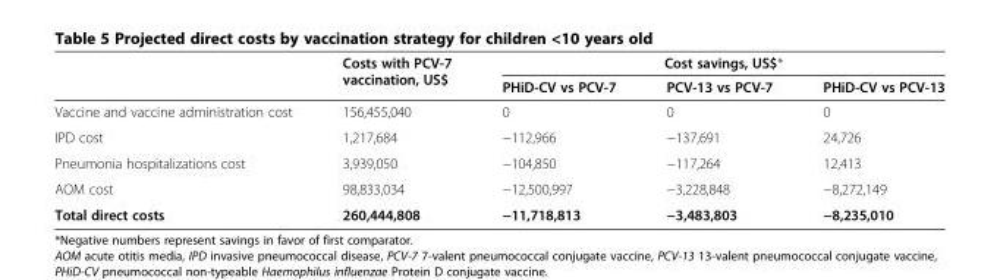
<table><thead><tr><td rowspan="2"></td><td rowspan="2">Costs with PCV-7 vaccination, US$</td><td colspan="3">Cost savings, US$*</td></tr><tr><td>PHiD-CV vs PCV-7</td><td>PCV-13 vs PCV-7</td><td>PHiD-CV vs PCV-13</td></tr></thead><tbody><tr><td>Vaccine and vaccine administration cost</td><td>156,455,040</td><td>0</td><td>0</td><td>0</td></tr><tr><td>IPD cost</td><td>1,217,684</td><td>−112,966</td><td>−137,691</td><td>24,726</td></tr><tr><td>Pneumonia hospitalizations cost</td><td>3,939,050</td><td>−104,850</td><td>−117,264</td><td>12,413</td></tr><tr><td>AOM cost</td><td>98,833,034</td><td>−12,500,997</td><td>−3,228,848</td><td>−8,272,149</td></tr><tr><td>Total direct costs</td><td>260,444,808</td><td>−11,718,813</td><td>−3,483,803</td><td>−8,235,010</td></tr></tbody></table>